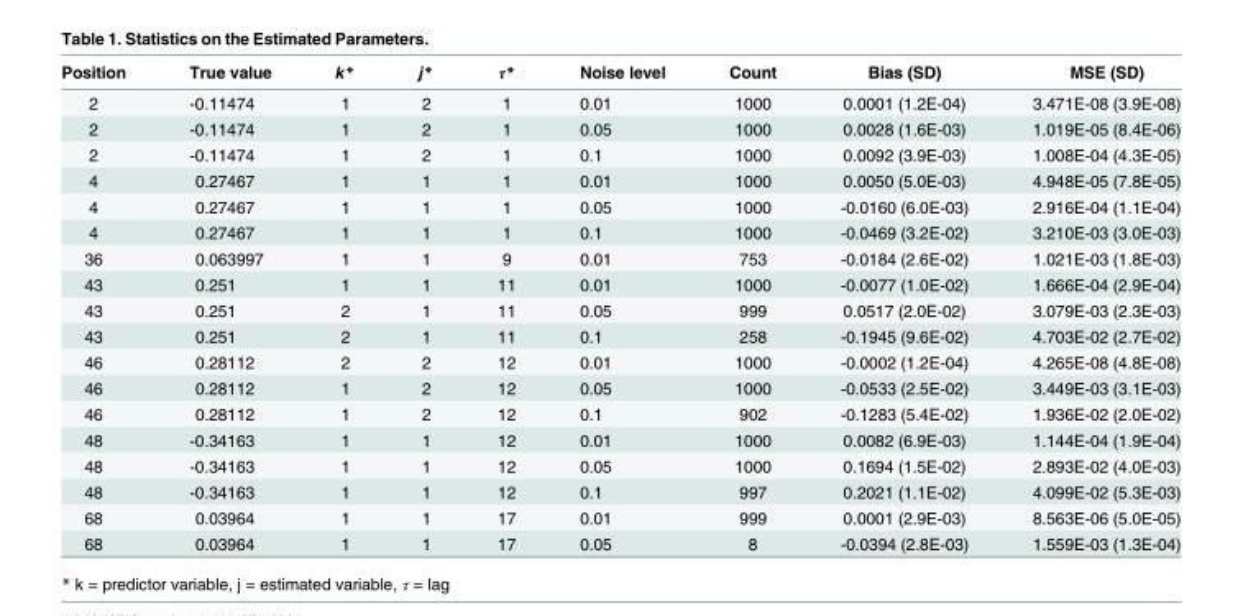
<table><thead><tr><td>Position</td><td>True value</td><td>k*</td><td>j*</td><td>τ*</td><td>Noise level</td><td>Count</td><td>Bias (SD)</td><td>MSE (SD)</td></tr></thead><tbody><tr><td>2</td><td>-0.11474</td><td>1</td><td>2</td><td>1</td><td>0.01</td><td>1000</td><td>0.0001 (1.2E-04)</td><td>3.471E-08 (3.9E-08)</td></tr><tr><td>2</td><td>-0.11474</td><td>1</td><td>2</td><td>1</td><td>0.05</td><td>1000</td><td>0.0028 (1.6E-03)</td><td>1.019E-05 (8.4E-06)</td></tr><tr><td>2</td><td>-0.11474</td><td>1</td><td>2</td><td>1</td><td>0.1</td><td>1000</td><td>0.0092 (3.9E-03)</td><td>1.008E-04 (4.3E-05)</td></tr><tr><td>4</td><td>0.27467</td><td>1</td><td>1</td><td>1</td><td>0.01</td><td>1000</td><td>0.0050 (5.0E-03)</td><td>4.948E-05 (7.8E-05)</td></tr><tr><td>4</td><td>0.27467</td><td>1</td><td>1</td><td>1</td><td>0.05</td><td>1000</td><td>-0.0160 (6.0E-03)</td><td>2.916E-04 (1.1E-04)</td></tr><tr><td>4</td><td>0.27467</td><td>1</td><td>1</td><td>1</td><td>0.1</td><td>1000</td><td>-0.0469 (3.2E-02)</td><td>3.210E-03 (3.0E-03)</td></tr><tr><td>36</td><td>0.063997</td><td>1</td><td>1</td><td>9</td><td>0.01</td><td>753</td><td>-0.0184 (2.6E-02)</td><td>1.021E-03 (1.8E-03)</td></tr><tr><td>43</td><td>0.251</td><td>1</td><td>1</td><td>11</td><td>0.01</td><td>1000</td><td>-0.0077 (1.0E-02)</td><td>1.666E-04 (2.9E-04)</td></tr><tr><td>43</td><td>0.251</td><td>2</td><td>1</td><td>11</td><td>0.05</td><td>999</td><td>0.0517 (2.0E-02)</td><td>3.079E-03 (2.3E-03)</td></tr><tr><td>43</td><td>0.251</td><td>2</td><td>1</td><td>11</td><td>0.1</td><td>258</td><td>-0.1945 (9.6E-02)</td><td>4.703E-02 (2.7E-02)</td></tr><tr><td>46</td><td>0.28112</td><td>2</td><td>2</td><td>12</td><td>0.01</td><td>1000</td><td>-0.0002 (1.2E-04)</td><td>4.265E-08 (4.8E-08)</td></tr><tr><td>46</td><td>0.28112</td><td>1</td><td>2</td><td>12</td><td>0.05</td><td>1000</td><td>-0.0533 (2.5E-02)</td><td>3.449E-03 (3.1E-03)</td></tr><tr><td>46</td><td>0.28112</td><td>1</td><td>2</td><td>12</td><td>0.1</td><td>902</td><td>-0.1283 (5.4E-02)</td><td>1.936E-02 (2.0E-02)</td></tr><tr><td>48</td><td>-0.34163</td><td>1</td><td>1</td><td>12</td><td>0.01</td><td>1000</td><td>0.0082 (6.9E-03)</td><td>1.144E-04 (1.9E-04)</td></tr><tr><td>48</td><td>-0.34163</td><td>1</td><td>1</td><td>12</td><td>0.05</td><td>1000</td><td>0.1694 (1.5E-02)</td><td>2.893E-02 (4.0E-03)</td></tr><tr><td>48</td><td>-0.34163</td><td>1</td><td>1</td><td>12</td><td>0.1</td><td>997</td><td>0.2021 (1.1E-02)</td><td>4.099E-02 (5.3E-03)</td></tr><tr><td>68</td><td>0.03964</td><td>1</td><td>1</td><td>17</td><td>0.01</td><td>999</td><td>0.0001 (2.9E-03)</td><td>8.563E-06 (5.0E-05)</td></tr><tr><td>68</td><td>0.03964</td><td>1</td><td>1</td><td>17</td><td>0.05</td><td>8</td><td>-0.0394 (2.8E-03)</td><td>1.559E-03 (1.3E-04)</td></tr></tbody></table>